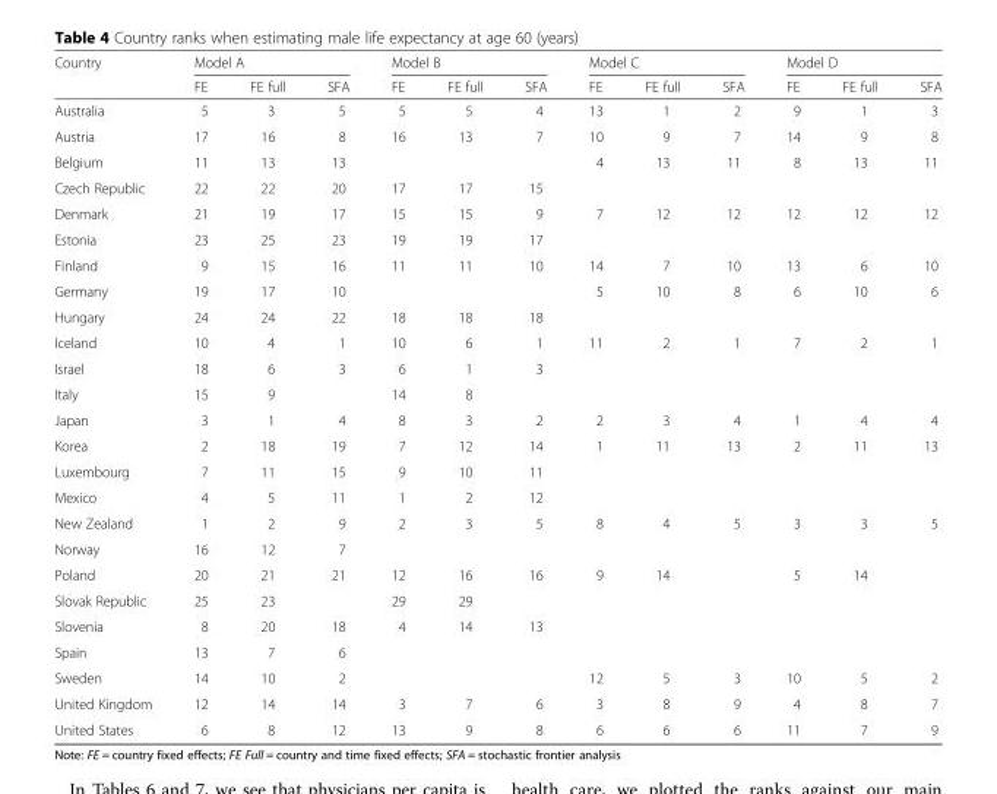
<table><thead><tr><td rowspan="2">Country</td><td colspan="3">Model A</td><td colspan="3">Model B</td><td colspan="3">Model C</td><td colspan="3">Model D</td></tr><tr><td>FE</td><td>FE full</td><td>SFA</td><td>FE</td><td>FE full</td><td>SFA</td><td>FE</td><td>FE full</td><td>SFA</td><td>FE</td><td>FE full</td><td>SFA</td></tr></thead><tbody><tr><td>Australia</td><td>5</td><td>3</td><td>5</td><td>5</td><td>5</td><td>4</td><td>13</td><td>1</td><td>2</td><td>9</td><td>1</td><td>3</td></tr><tr><td>Austria</td><td>17</td><td>16</td><td>8</td><td>16</td><td>13</td><td>7</td><td>10</td><td>9</td><td>7</td><td>14</td><td>9</td><td>8</td></tr><tr><td>Belgium</td><td>11</td><td>13</td><td>13</td><td></td><td></td><td></td><td>4</td><td>13</td><td>11</td><td>8</td><td>13</td><td>11</td></tr><tr><td>Czech Republic</td><td>22</td><td>22</td><td>20</td><td>17</td><td>17</td><td>15</td><td></td><td></td><td></td><td></td><td></td><td></td></tr><tr><td>Denmark</td><td>21</td><td>19</td><td>17</td><td>15</td><td>15</td><td>9</td><td>7</td><td>12</td><td>12</td><td>12</td><td>12</td><td>12</td></tr><tr><td>Estonia</td><td>23</td><td>25</td><td>23</td><td>19</td><td>19</td><td>17</td><td></td><td></td><td></td><td></td><td></td><td></td></tr><tr><td>Finland</td><td>9</td><td>15</td><td>16</td><td>11</td><td>11</td><td>10</td><td>14</td><td>7</td><td>10</td><td>13</td><td>6</td><td>10</td></tr><tr><td>Germany</td><td>19</td><td>17</td><td>10</td><td></td><td></td><td></td><td>5</td><td>10</td><td>8</td><td>6</td><td>10</td><td>6</td></tr><tr><td>Hungary</td><td>24</td><td>24</td><td>22</td><td>18</td><td>18</td><td>18</td><td></td><td></td><td></td><td></td><td></td><td></td></tr><tr><td>Iceland</td><td>10</td><td>4</td><td>1</td><td>10</td><td>6</td><td>1</td><td>11</td><td>2</td><td>1</td><td>7</td><td>2</td><td>1</td></tr><tr><td>Israel</td><td>18</td><td>6</td><td>3</td><td>6</td><td>1</td><td>3</td><td></td><td></td><td></td><td></td><td></td><td></td></tr><tr><td>Italy</td><td>15</td><td>9</td><td></td><td>14</td><td>8</td><td></td><td></td><td></td><td></td><td></td><td></td><td></td></tr><tr><td>Japan</td><td>3</td><td>1</td><td>4</td><td>8</td><td>3</td><td>2</td><td>2</td><td>3</td><td>4</td><td>1</td><td>4</td><td>4</td></tr><tr><td>Korea</td><td>2</td><td>18</td><td>19</td><td>7</td><td>12</td><td>14</td><td>1</td><td>11</td><td>13</td><td>2</td><td>11</td><td>13</td></tr><tr><td>Luxembourg</td><td>7</td><td>11</td><td>15</td><td>9</td><td>10</td><td>11</td><td></td><td></td><td></td><td></td><td></td><td></td></tr><tr><td>Mexico</td><td>4</td><td>5</td><td>11</td><td>1</td><td>2</td><td>12</td><td></td><td></td><td></td><td></td><td></td><td></td></tr><tr><td>New Zealand</td><td>1</td><td>2</td><td>9</td><td>2</td><td>3</td><td>5</td><td>8</td><td>4</td><td>5</td><td>3</td><td>3</td><td>5</td></tr><tr><td>Norway</td><td>16</td><td>12</td><td>7</td><td></td><td></td><td></td><td></td><td></td><td></td><td></td><td></td><td></td></tr><tr><td>Poland</td><td>20</td><td>21</td><td>21</td><td>12</td><td>16</td><td>16</td><td>9</td><td>14</td><td></td><td>5</td><td>14</td><td></td></tr><tr><td>Slovak Republic</td><td>25</td><td>23</td><td></td><td>29</td><td>29</td><td></td><td></td><td></td><td></td><td></td><td></td><td></td></tr><tr><td>Slovenia</td><td>8</td><td>20</td><td>18</td><td>4</td><td>14</td><td>13</td><td></td><td></td><td></td><td></td><td></td><td></td></tr><tr><td>Spain</td><td>13</td><td>7</td><td>6</td><td></td><td></td><td></td><td></td><td></td><td></td><td></td><td></td><td></td></tr><tr><td>Sweden</td><td>14</td><td>10</td><td>2</td><td></td><td></td><td></td><td>12</td><td>5</td><td>3</td><td>10</td><td>5</td><td>2</td></tr><tr><td>United Kingdom</td><td>12</td><td>14</td><td>14</td><td>3</td><td>7</td><td>6</td><td>3</td><td>8</td><td>9</td><td>4</td><td>8</td><td>7</td></tr><tr><td>United States</td><td>6</td><td>8</td><td>12</td><td>13</td><td>9</td><td>8</td><td>6</td><td>6</td><td>6</td><td>11</td><td>7</td><td>9</td></tr></tbody></table>